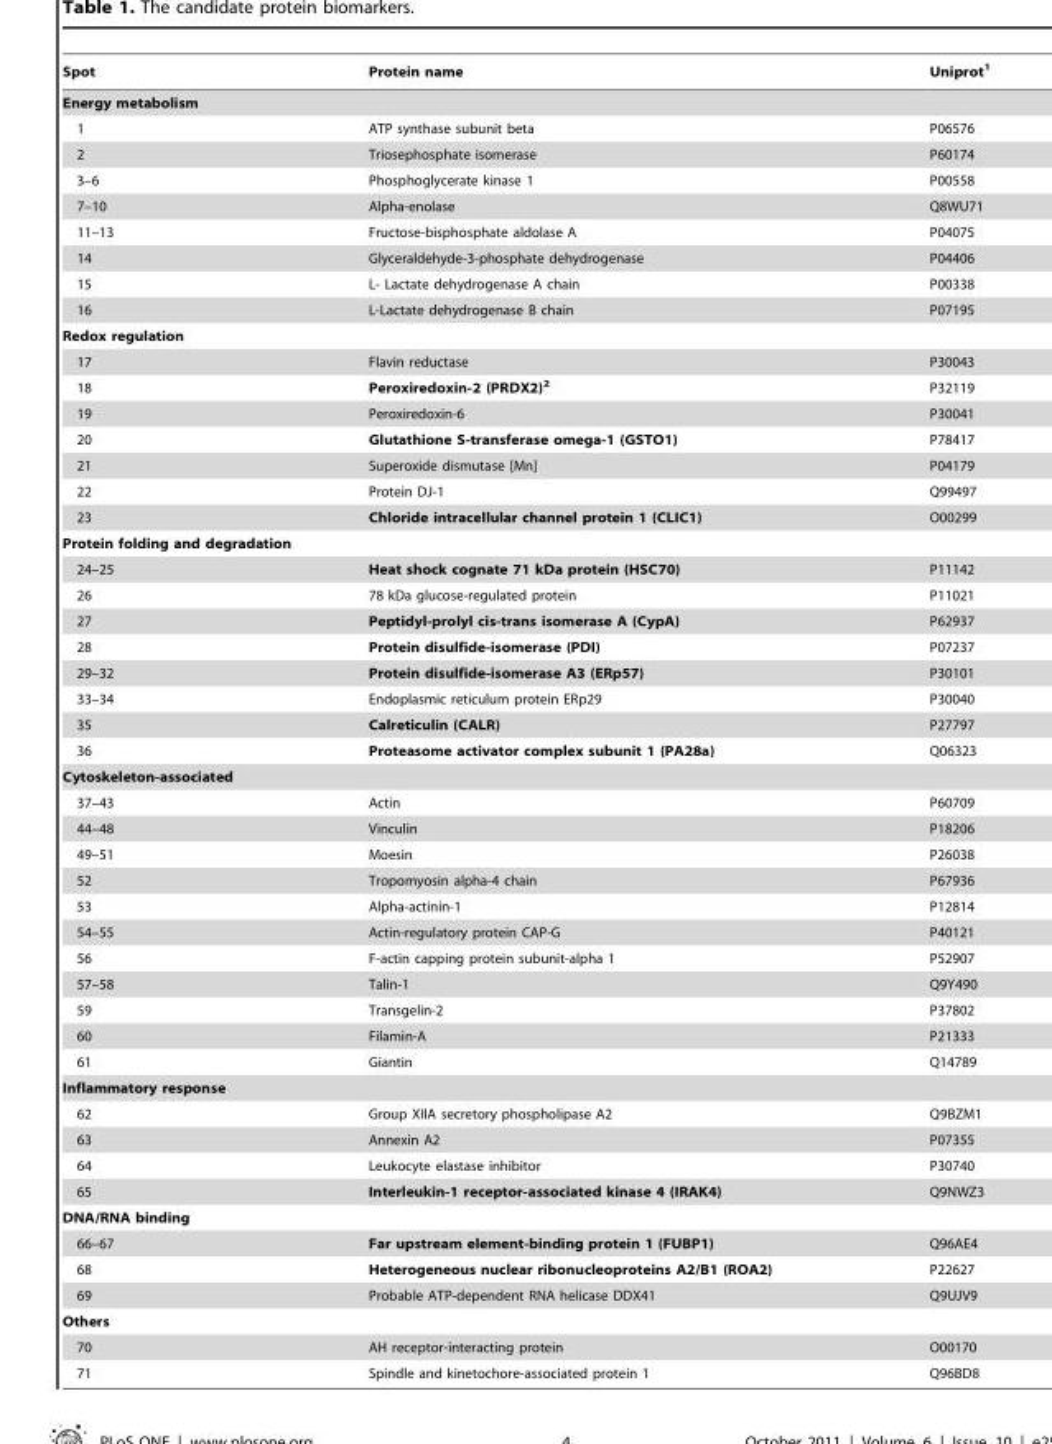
<table><thead><tr><td>Spot</td><td>Protein name</td><td>Uniprot<sup>1</sup></td></tr></thead><tbody><tr><td colspan="3">Energy metabolism</td></tr><tr><td>1</td><td>ATP synthase subunit beta</td><td>P06576</td></tr><tr><td>2</td><td>Triosephosphate isomerase</td><td>P60174</td></tr><tr><td>3–6</td><td>Phosphoglycerate kinase 1</td><td>P00558</td></tr><tr><td>7–10</td><td>Alpha-enolase</td><td>Q8WU71</td></tr><tr><td>11–13</td><td>Fructose-bisphosphate aldolase A</td><td>P04075</td></tr><tr><td>14</td><td>Glyceraldehyde-3-phosphate dehydrogenase</td><td>P04406</td></tr><tr><td>15</td><td>L- Lactate dehydrogenase A chain</td><td>P00338</td></tr><tr><td>16</td><td>L-Lactate dehydrogenase B chain</td><td>P07195</td></tr><tr><td colspan="3">Redox regulation</td></tr><tr><td>17</td><td>Flavin reductase</td><td>P30043</td></tr><tr><td>18</td><td>Peroxiredoxin-2 (PRDX2)2</td><td>P32119</td></tr><tr><td>19</td><td>Peroxiredoxin-6</td><td>P30041</td></tr><tr><td>20</td><td>Glutathione S-transferase omega-1 (GSTO1)</td><td>P78417</td></tr><tr><td>21</td><td>Superoxide dismutase [Mn]</td><td>P04179</td></tr><tr><td>22</td><td>Protein DJ-1</td><td>Q99497</td></tr><tr><td>23</td><td>Chloride intracellular channel protein 1 (CLIC1)</td><td>O00299</td></tr><tr><td colspan="3">Protein folding and degradation</td></tr><tr><td>24–25</td><td>Heat shock cognate 71 kDa protein (HSC70)</td><td>P11142</td></tr><tr><td>26</td><td>78 kDa glucose-regulated protein</td><td>P11021</td></tr><tr><td>27</td><td>Peptidyl-prolyl cis-trans isomerase A (CypA)</td><td>P62937</td></tr><tr><td>28</td><td>Protein disulfide-isomerase (PDI)</td><td>P07237</td></tr><tr><td>29–32</td><td>Protein disulfide-isomerase A3 (ERp57)</td><td>P30101</td></tr><tr><td>33–34</td><td>Endoplasmic reticulum protein ERp29</td><td>P30040</td></tr><tr><td>35</td><td>Calreticulin (CALR)</td><td>P27797</td></tr><tr><td>36</td><td>Proteasome activator complex subunit 1 (PA28a)</td><td>Q06323</td></tr><tr><td colspan="3">Cytoskeleton-associated</td></tr><tr><td>37–43</td><td>Actin</td><td>P60709</td></tr><tr><td>44–48</td><td>Vinculin</td><td>P18206</td></tr><tr><td>49–51</td><td>Moesin</td><td>P26038</td></tr><tr><td>52</td><td>Tropomyosin alpha-4 chain</td><td>P67936</td></tr><tr><td>53</td><td>Alpha-actinin-1</td><td>P12814</td></tr><tr><td>54–55</td><td>Actin-regulatory protein CAP-G</td><td>P40121</td></tr><tr><td>56</td><td>F-actin capping protein subunit-alpha 1</td><td>P52907</td></tr><tr><td>57–58</td><td>Talin-1</td><td>Q9Y490</td></tr><tr><td>59</td><td>Transgelin-2</td><td>P37802</td></tr><tr><td>60</td><td>Filamin-A</td><td>P21333</td></tr><tr><td>61</td><td>Giantin</td><td>Q14789</td></tr><tr><td colspan="3">Inflammatory response</td></tr><tr><td>62</td><td>Group XIIA secretory phospholipase A2</td><td>Q9BZM1</td></tr><tr><td>63</td><td>Annexin A2</td><td>P07355</td></tr><tr><td>64</td><td>Leukocyte elastase inhibitor</td><td>P30740</td></tr><tr><td>65</td><td>Interleukin-1 receptor-associated kinase 4 (IRAK4)</td><td>Q9NWZ3</td></tr><tr><td colspan="3">DNA/RNA binding</td></tr><tr><td>66–67</td><td>Far upstream element-binding protein 1 (FUBP1)</td><td>Q96AE4</td></tr><tr><td>68</td><td>Heterogeneous nuclear ribonucleoproteins A2/B1 (ROA2)</td><td>P22627</td></tr><tr><td>69</td><td>Probable ATP-dependent RNA helicase DDX41</td><td>Q9UJV9</td></tr><tr><td colspan="3">Others</td></tr><tr><td>70</td><td>AH receptor-interacting protein</td><td>O00170</td></tr><tr><td>71</td><td>Spindle and kinetochore-associated protein 1</td><td>Q96BD8</td></tr></tbody></table>